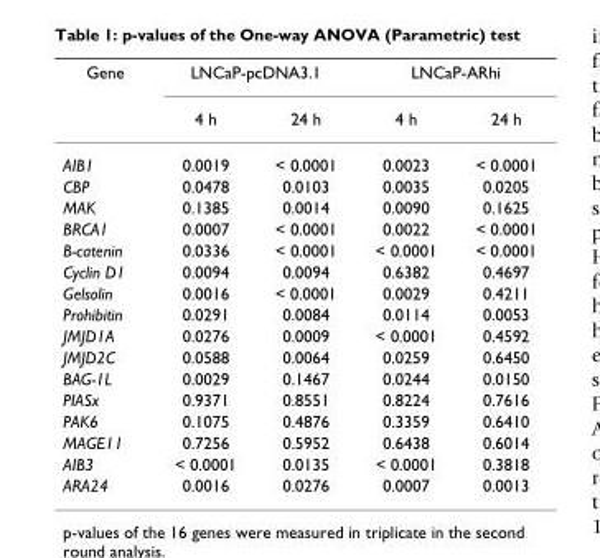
<table><thead><tr><td rowspan="2">Gene</td><td colspan="2">LNCaP-pcDNA3.1</td><td colspan="2">LNCaP-ARhi</td></tr><tr><td>4 h</td><td>24 h</td><td>4 h</td><td>24 h</td></tr></thead><tbody><tr><td>AIB1</td><td>0.0019</td><td>&lt; 0.0001</td><td>0.0023</td><td>&lt; 0.0001</td></tr><tr><td>CBP</td><td>0.0478</td><td>0.0103</td><td>0.0035</td><td>0.0205</td></tr><tr><td>MAK</td><td>0.1385</td><td>0.0014</td><td>0.0090</td><td>0.1625</td></tr><tr><td>BRCA1</td><td>0.0007</td><td>&lt; 0.0001</td><td>0.0022</td><td>&lt; 0.0001</td></tr><tr><td>B-catenin</td><td>0.0336</td><td>&lt; 0.0001</td><td>&lt; 0.0001</td><td>&lt; 0.0001</td></tr><tr><td>Cyclin D1</td><td>0.0094</td><td>0.0094</td><td>0.6382</td><td>0.4697</td></tr><tr><td>Gelsolin</td><td>0.0016</td><td>&lt; 0.0001</td><td>0.0029</td><td>0.4211</td></tr><tr><td>Prohibitin</td><td>0.0291</td><td>0.0084</td><td>0.0114</td><td>0.0053</td></tr><tr><td>JMJD1A</td><td>0.0276</td><td>0.0009</td><td>&lt; 0.0001</td><td>0.4592</td></tr><tr><td>JMJD2C</td><td>0.0588</td><td>0.0064</td><td>0.0259</td><td>0.6450</td></tr><tr><td>BAG-1L</td><td>0.0029</td><td>0.1467</td><td>0.0244</td><td>0.0150</td></tr><tr><td>PIASx</td><td>0.9371</td><td>0.8551</td><td>0.8224</td><td>0.7616</td></tr><tr><td>PAK6</td><td>0.1075</td><td>0.4876</td><td>0.3359</td><td>0.6410</td></tr><tr><td>MAGE11</td><td>0.7256</td><td>0.5952</td><td>0.6438</td><td>0.6014</td></tr><tr><td>AIB3</td><td>&lt; 0.0001</td><td>0.0135</td><td>&lt; 0.0001</td><td>0.3818</td></tr><tr><td>ARA24</td><td>0.0016</td><td>0.0276</td><td>0.0007</td><td>0.0013</td></tr></tbody></table>